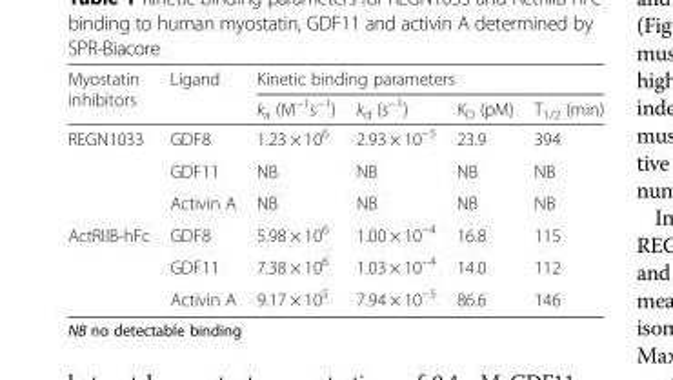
<table><thead><tr><td rowspan="2">Myostatin inhibitors</td><td rowspan="2">Ligand</td><td colspan="4">Kinetic binding parameters</td></tr><tr><td>k<sub>a</sub> (M<sup>−1</sup>s<sup>−1</sup>)</td><td>k<sub>d</sub> (s<sup>−1</sup>)</td><td>K<sub>D</sub> (pM)</td><td>T<sub>1/2</sub> (min)</td></tr></thead><tbody><tr><td rowspan="3">REGN1033</td><td>GDF8</td><td>1.23 × 10<sup>6</sup></td><td>2.93 × 10<sup>−5</sup></td><td>23.9</td><td>394</td></tr><tr><td>GDF11</td><td>NB</td><td>NB</td><td>NB</td><td>NB</td></tr><tr><td>Activin A</td><td>NB</td><td>NB</td><td>NB</td><td>NB</td></tr><tr><td rowspan="3">ActRIIB-hFc</td><td>GDF8</td><td>5.98 × 10<sup>6</sup></td><td>1.00 × 10<sup>−4</sup></td><td>16.8</td><td>115</td></tr><tr><td>GDF11</td><td>7.38 × 10<sup>6</sup></td><td>1.03 × 10<sup>−4</sup></td><td>14.0</td><td>112</td></tr><tr><td>Activin A</td><td>9.17 × 10<sup>5</sup></td><td>7.94 × 10<sup>−5</sup></td><td>86.6</td><td>146</td></tr></tbody></table>